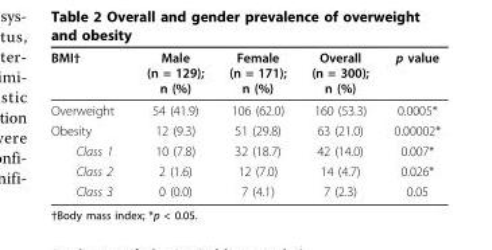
<table><thead><tr><td>BMI†</td><td>Male (n = 129); n (%)</td><td>Female (n = 171); n (%)</td><td>Overall (n = 300); n (%)</td><td>p value</td></tr></thead><tbody><tr><td>Overweight</td><td>54 (41.9)</td><td>106 (62.0)</td><td>160 (53.3)</td><td>0.0005*</td></tr><tr><td>Obesity</td><td>12 (9.3)</td><td>51 (29.8)</td><td>63 (21.0)</td><td>0.00002*</td></tr><tr><td>Class 1</td><td>10 (7.8)</td><td>32 (18.7)</td><td>42 (14.0)</td><td>0.007*</td></tr><tr><td>Class 2</td><td>2 (1.6)</td><td>12 (7.0)</td><td>14 (4.7)</td><td>0.026*</td></tr><tr><td>Class 3</td><td>0 (0.0)</td><td>7 (4.1)</td><td>7 (2.3)</td><td>0.05</td></tr></tbody></table>